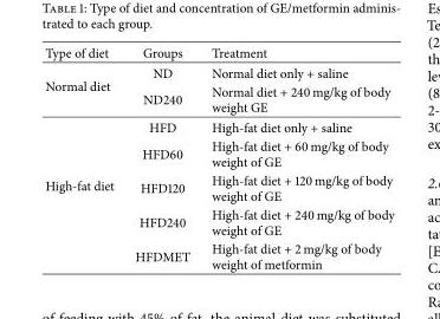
<table><thead><tr><td>Type of diet</td><td>Groups</td><td>Treatment</td></tr></thead><tbody><tr><td rowspan="2">Normal diet</td><td>ND</td><td>Normal diet only + saline</td></tr><tr><td>ND240</td><td>Normal diet + 240 mg/kg of body weight GE</td></tr><tr><td rowspan="5">High-fat diet</td><td>HFD</td><td>High-fat diet only + saline</td></tr><tr><td>HFD60</td><td>High-fat diet + 60 mg/kg of body weight of GE</td></tr><tr><td>HFD120</td><td>High-fat diet + 120 mg/kg of body weight of GE</td></tr><tr><td>HFD240</td><td>High-fat diet + 240 mg/kg of body weight of GE</td></tr><tr><td>HFDMET</td><td>High-fat diet + 2 mg/kg of body weight of metformin</td></tr></tbody></table>